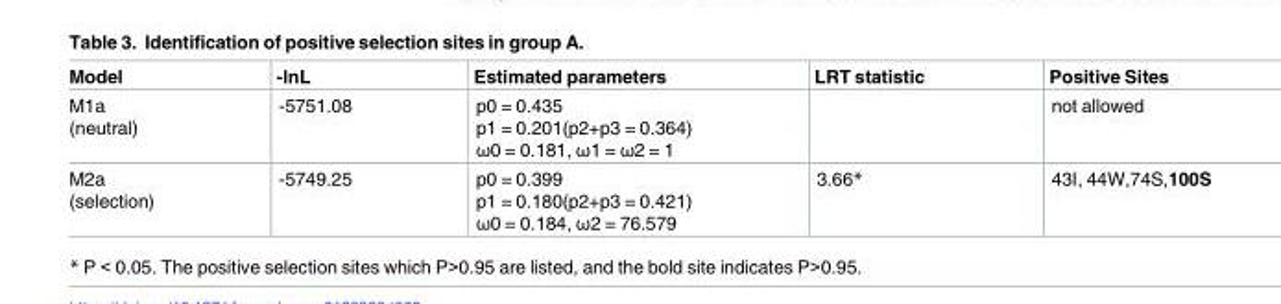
<table><thead><tr><td>Model</td><td>-lnL</td><td>Estimated parameters</td><td>LRT statistic</td><td>Positive Sites</td></tr></thead><tbody><tr><td>M1a (neutral)</td><td>-5751.08</td><td>p0 = 0.435 p1 = 0.201(p2+p3 = 0.364) ω0 = 0.181, ω1 = ω2 = 1</td><td></td><td>not allowed</td></tr><tr><td>M2a (selection)</td><td>-5749.25</td><td>p0 = 0.399 p1 = 0.180(p2+p3 = 0.421) ω0 = 0.184, ω2 = 76.579</td><td>3.66*</td><td>43I, 44W,74S,100S</td></tr></tbody></table>